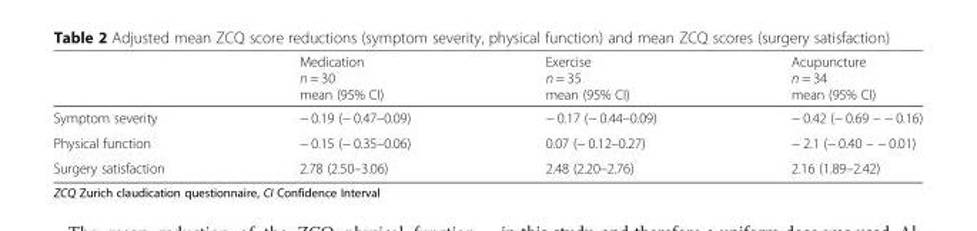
<table><thead><tr><td></td><td>Medication n = 30 mean (95% CI)</td><td>Exercise n = 35 mean (95% CI)</td><td>Acupuncture n = 34 mean (95% CI)</td></tr></thead><tbody><tr><td>Symptom severity</td><td>− 0.19 (− 0.47–0.09)</td><td>− 0.17 (− 0.44–0.09)</td><td>− 0.42 (− 0.69 – − 0.16)</td></tr><tr><td>Physical function</td><td>− 0.15 (− 0.35–0.06)</td><td>0.07 (− 0.12–0.27)</td><td>− 2.1 (− 0.40 – − 0.01)</td></tr><tr><td>Surgery satisfaction</td><td>2.78 (2.50–3.06)</td><td>2.48 (2.20–2.76)</td><td>2.16 (1.89–2.42)</td></tr></tbody></table>